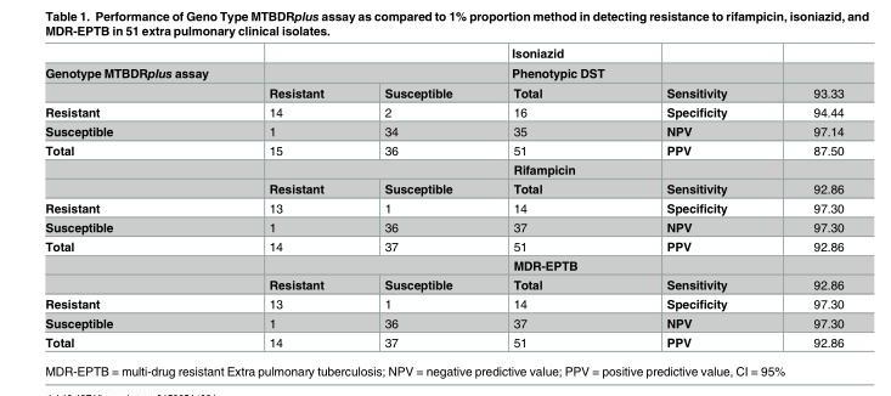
<table><thead><tr><td rowspan="2">Genotype MTBDRplus assay</td><td rowspan="2"></td><td rowspan="2"></td><td rowspan="2">Isoniazid Phenotypic DST</td><td rowspan="2"></td><td rowspan="2"></td></tr><tr></tr></thead><tbody><tr><td></td><td>Resistant</td><td>Susceptible</td><td>Total</td><td>Sensitivity</td><td>93.33</td></tr><tr><td>Resistant</td><td>14</td><td>2</td><td>16</td><td>Specificity</td><td>94.44</td></tr><tr><td>Susceptible</td><td>1</td><td>34</td><td>35</td><td>NPV</td><td>97.14</td></tr><tr><td rowspan="3">Total</td><td>15</td><td>36</td><td>51</td><td>PPV</td><td>87.50</td></tr><tr><td colspan="2"></td><td>Rifampicin</td><td></td><td></td></tr><tr><td>Resistant</td><td>Susceptible</td><td>Total</td><td>Sensitivity</td><td>92.86</td></tr><tr><td>Resistant</td><td>13</td><td>1</td><td>14</td><td>Specificity</td><td>97.30</td></tr><tr><td>Susceptible</td><td>1</td><td>36</td><td>37</td><td>NPV</td><td>97.30</td></tr><tr><td rowspan="3">Total</td><td>14</td><td>37</td><td>51</td><td>PPV</td><td>92.86</td></tr><tr><td colspan="2"></td><td>MDR-EPTB</td><td></td><td></td></tr><tr><td>Resistant</td><td>Susceptible</td><td>Total</td><td>Sensitivity</td><td>92.86</td></tr><tr><td>Resistant</td><td>13</td><td>1</td><td>14</td><td>Specificity</td><td>97.30</td></tr><tr><td>Susceptible</td><td>1</td><td>36</td><td>37</td><td>NPV</td><td>97.30</td></tr><tr><td>Total</td><td>14</td><td>37</td><td>51</td><td>PPV</td><td>92.86</td></tr></tbody></table>